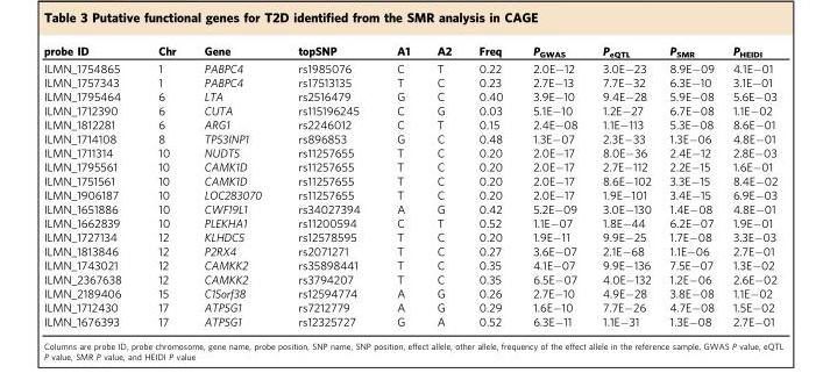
<table><thead><tr><td>probe ID</td><td>Chr</td><td>Gene</td><td>topSNP</td><td>A1</td><td>A2</td><td>Freq</td><td>P<sub>GWAS</sub></td><td>P<sub>eQTL</sub></td><td>P<sub>SMR</sub></td><td>P<sub>HEIDI</sub></td></tr></thead><tbody><tr><td>ILMN_1754865</td><td>1</td><td>PABPC4</td><td>rs1985076</td><td>C</td><td>T</td><td>0.22</td><td>2.0E−12</td><td>3.0E−23</td><td>8.9E−09</td><td>4.1E−01</td></tr><tr><td>ILMN_1757343</td><td>1</td><td>PABPC4</td><td>rs17513135</td><td>T</td><td>C</td><td>0.23</td><td>2.7E−13</td><td>7.7E−32</td><td>6.3E−10</td><td>3.1E−01</td></tr><tr><td>ILMN_1795464</td><td>6</td><td>LTA</td><td>rs2516479</td><td>G</td><td>C</td><td>0.40</td><td>3.9E−10</td><td>9.4E−28</td><td>5.9E−08</td><td>5.6E−03</td></tr><tr><td>ILMN_1712390</td><td>6</td><td>CUTA</td><td>rs115196245</td><td>C</td><td>G</td><td>0.03</td><td>5.1E−10</td><td>1.2E−27</td><td>6.7E−08</td><td>1.1E−02</td></tr><tr><td>ILMN_1812281</td><td>6</td><td>ARG1</td><td>rs2246012</td><td>C</td><td>T</td><td>0.15</td><td>2.4E−08</td><td>1.1E−113</td><td>5.3E−08</td><td>8.6E−01</td></tr><tr><td>ILMN_1714108</td><td>8</td><td>TP53INP1</td><td>rs896853</td><td>G</td><td>C</td><td>0.48</td><td>1.3E−07</td><td>2.3E−33</td><td>1.3E−06</td><td>4.8E−01</td></tr><tr><td>ILMN_1711314</td><td>10</td><td>NUDT5</td><td>rs11257655</td><td>T</td><td>C</td><td>0.20</td><td>2.0E−17</td><td>8.0E−36</td><td>2.4E−12</td><td>2.8E−03</td></tr><tr><td>ILMN_1795561</td><td>10</td><td>CAMK1D</td><td>rs11257655</td><td>T</td><td>C</td><td>0.20</td><td>2.0E−17</td><td>2.7E−112</td><td>2.2E−15</td><td>1.6E−01</td></tr><tr><td>ILMN_1751561</td><td>10</td><td>CAMK1D</td><td>rs11257655</td><td>T</td><td>C</td><td>0.20</td><td>2.0E−17</td><td>8.6E−102</td><td>3.3E−15</td><td>8.4E−02</td></tr><tr><td>ILMN_1906187</td><td>10</td><td>LOC283070</td><td>rs11257655</td><td>T</td><td>C</td><td>0.20</td><td>2.0E−17</td><td>1.9E−101</td><td>3.4E−15</td><td>6.9E−03</td></tr><tr><td>ILMN_1651886</td><td>10</td><td>CWF19L1</td><td>rs34027394</td><td>A</td><td>G</td><td>0.42</td><td>5.2E−09</td><td>3.0E−130</td><td>1.4E−08</td><td>4.8E−01</td></tr><tr><td>ILMN_1662839</td><td>10</td><td>PLEKHA1</td><td>rs11200594</td><td>C</td><td>T</td><td>0.52</td><td>1.1E−07</td><td>1.8E−44</td><td>6.2E−07</td><td>1.9E−01</td></tr><tr><td>ILMN_1727134</td><td>12</td><td>KLHDC5</td><td>rs12578595</td><td>T</td><td>C</td><td>0.20</td><td>1.9E−11</td><td>9.9E−25</td><td>1.7E−08</td><td>3.3E−03</td></tr><tr><td>ILMN_1813846</td><td>12</td><td>P2RX4</td><td>rs2071271</td><td>T</td><td>C</td><td>0.27</td><td>3.6E−07</td><td>2.1E−68</td><td>1.1E−06</td><td>2.7E−01</td></tr><tr><td>ILMN_1743021</td><td>12</td><td>CAMKK2</td><td>rs35898441</td><td>T</td><td>C</td><td>0.35</td><td>4.1E−07</td><td>9.9E−136</td><td>7.5E−07</td><td>1.3E−02</td></tr><tr><td>ILMN_2367638</td><td>12</td><td>CAMKK2</td><td>rs3794207</td><td>T</td><td>C</td><td>0.35</td><td>6.5E−07</td><td>4.0E−132</td><td>1.2E−06</td><td>2.6E−02</td></tr><tr><td>ILMN_2189406</td><td>15</td><td>C15orf38</td><td>rs12594774</td><td>A</td><td>G</td><td>0.26</td><td>2.7E−10</td><td>4.9E−28</td><td>3.8E−08</td><td>1.1E−02</td></tr><tr><td>ILMN_1712430</td><td>17</td><td>ATP5G1</td><td>rs7212779</td><td>A</td><td>G</td><td>0.29</td><td>1.6E−10</td><td>7.7E−26</td><td>4.7E−08</td><td>1.5E−02</td></tr><tr><td>ILMN_1676393</td><td>17</td><td>ATP5G1</td><td>rs12325727</td><td>G</td><td>A</td><td>0.52</td><td>6.3E−11</td><td>1.1E−31</td><td>1.3E−08</td><td>2.7E−01</td></tr></tbody></table>